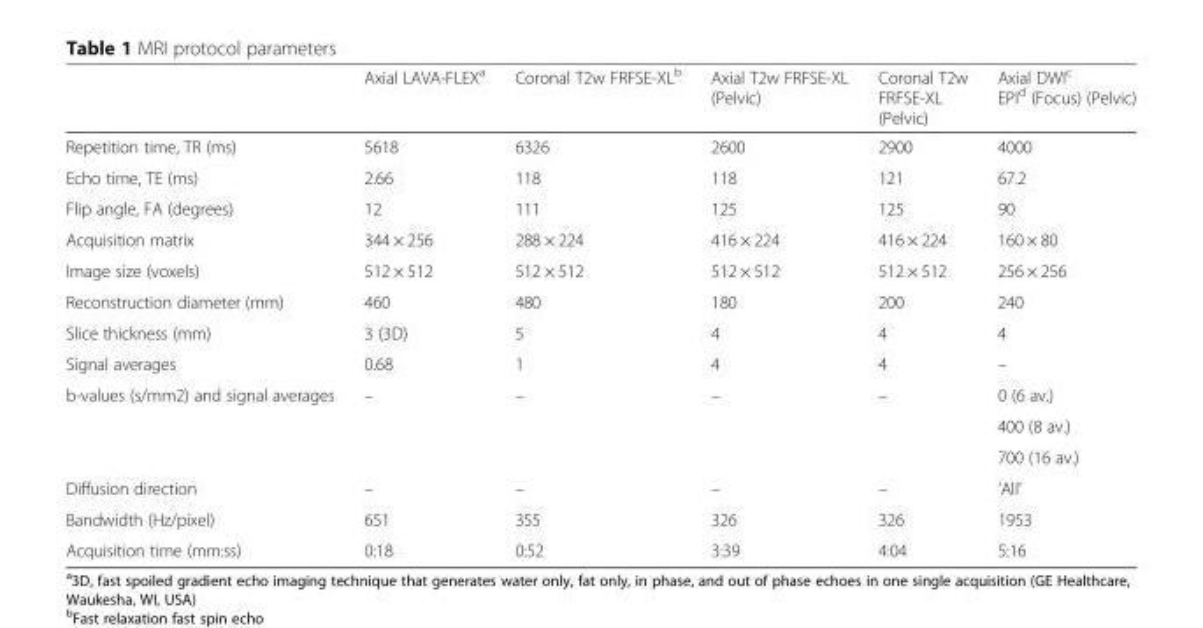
<table><thead><tr><td></td><td>Axial LAVA-FLEX<sup>a</sup></td><td>Coronal T2w FRFSE-XL<sup>b</sup></td><td>Axial T2w FRFSE-XL (Pelvic)</td><td>Coronal T2w FRFSE-XL (Pelvic)</td><td>Axial DWI<sup>c</sup> EPI<sup>d</sup> (Focus) (Pelvic)</td></tr></thead><tbody><tr><td>Repetition time, TR (ms)</td><td>5618</td><td>6326</td><td>2600</td><td>2900</td><td>4000</td></tr><tr><td>Echo time, TE (ms)</td><td>2.66</td><td>118</td><td>118</td><td>121</td><td>67.2</td></tr><tr><td>Flip angle, FA (degrees)</td><td>12</td><td>111</td><td>125</td><td>125</td><td>90</td></tr><tr><td>Acquisition matrix</td><td>344 × 256</td><td>288 × 224</td><td>416 × 224</td><td>416 × 224</td><td>160 × 80</td></tr><tr><td>Image size (voxels)</td><td>512 × 512</td><td>512 × 512</td><td>512 × 512</td><td>512 × 512</td><td>256 × 256</td></tr><tr><td>Reconstruction diameter (mm)</td><td>460</td><td>480</td><td>180</td><td>200</td><td>240</td></tr><tr><td>Slice thickness (mm)</td><td>3 (3D)</td><td>5</td><td>4</td><td>4</td><td>4</td></tr><tr><td>Signal averages</td><td>0.68</td><td>1</td><td>4</td><td>4</td><td>–</td></tr><tr><td rowspan="3">b-values (s/mm2) and signal averages</td><td rowspan="3">–</td><td rowspan="3">–</td><td rowspan="3">–</td><td rowspan="3">–</td><td>0 (6 av.)</td></tr><tr><td>400 (8 av.)</td></tr><tr><td>700 (16 av.)</td></tr><tr><td>Diffusion direction</td><td>–</td><td>–</td><td>–</td><td>–</td><td>‘All’</td></tr><tr><td>Bandwidth (Hz/pixel)</td><td>651</td><td>355</td><td>326</td><td>326</td><td>1953</td></tr><tr><td>Acquisition time (mm:ss)</td><td>0:18</td><td>0:52</td><td>3:39</td><td>4:04</td><td>5:16</td></tr></tbody></table>